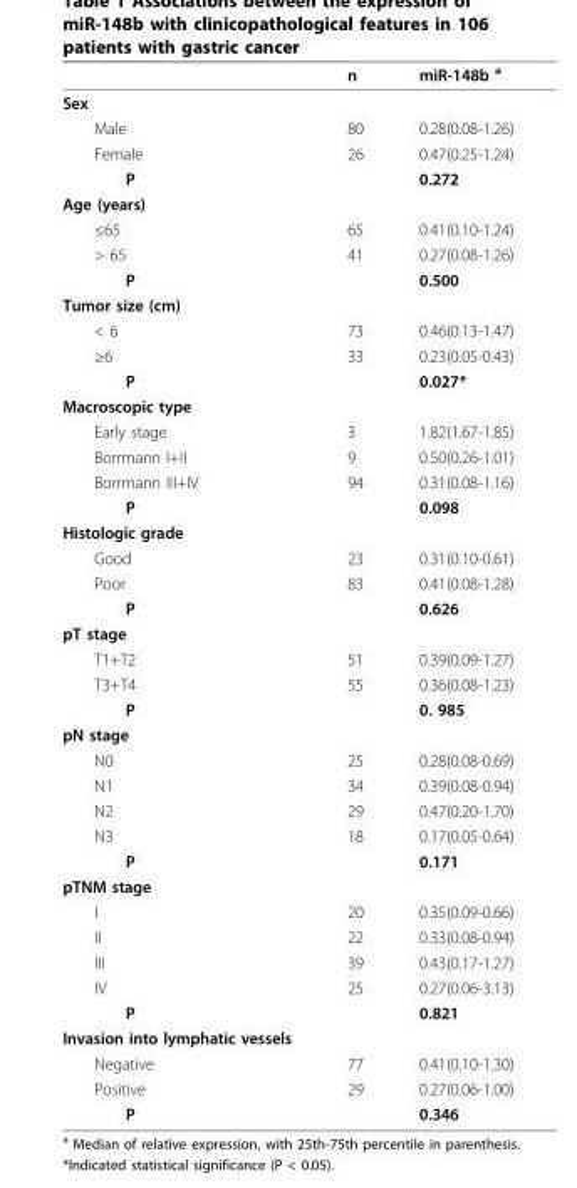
<table><thead><tr><td></td><td>n</td><td>miR-148b <sup>a</sup></td></tr></thead><tbody><tr><td colspan="3">Sex</td></tr><tr><td>Male</td><td>80</td><td>0.28(0.08-1.26)</td></tr><tr><td>Female</td><td>26</td><td>0.47(0.25-1.24)</td></tr><tr><td>P</td><td></td><td>0.272</td></tr><tr><td colspan="3">Age (years)</td></tr><tr><td>≤65</td><td>65</td><td>0.41(0.10-1.24)</td></tr><tr><td>&gt; 65</td><td>41</td><td>0.27(0.08-1.26)</td></tr><tr><td>P</td><td></td><td>0.500</td></tr><tr><td colspan="3">Tumor size (cm)</td></tr><tr><td>&lt; 6</td><td>73</td><td>0.46(0.13-1.47)</td></tr><tr><td>≥6</td><td>33</td><td>0.23(0.05-0.43)</td></tr><tr><td>P</td><td></td><td>0.027*</td></tr><tr><td colspan="3">Macroscopic type</td></tr><tr><td>Early stage</td><td>3</td><td>1.82(1.67-1.85)</td></tr><tr><td>Borrmann I+II</td><td>9</td><td>0.50(0.26-1.01)</td></tr><tr><td>Borrmann III+IV</td><td>94</td><td>0.31(0.08-1.16)</td></tr><tr><td>P</td><td></td><td>0.098</td></tr><tr><td colspan="3">Histologic grade</td></tr><tr><td>Good</td><td>23</td><td>0.31(0.10-0.61)</td></tr><tr><td>Poor</td><td>83</td><td>0.41(0.08-1.28)</td></tr><tr><td>P</td><td></td><td>0.626</td></tr><tr><td colspan="3">pT stage</td></tr><tr><td>T1+T2</td><td>51</td><td>0.39(0.09-1.27)</td></tr><tr><td>T3+T4</td><td>55</td><td>0.36(0.08-1.23)</td></tr><tr><td>P</td><td></td><td>0. 985</td></tr><tr><td colspan="3">pN stage</td></tr><tr><td>N0</td><td>25</td><td>0.28(0.08-0.69)</td></tr><tr><td>N1</td><td>34</td><td>0.39(0.08-0.94)</td></tr><tr><td>N2</td><td>29</td><td>0.47(0.20-1.70)</td></tr><tr><td>N3</td><td>18</td><td>0.17(0.05-0.64)</td></tr><tr><td>P</td><td></td><td>0.171</td></tr><tr><td colspan="3">pTNM stage</td></tr><tr><td>I</td><td>20</td><td>0.35(0.09-0.66)</td></tr><tr><td>II</td><td>22</td><td>0.33(0.08-0.94)</td></tr><tr><td>III</td><td>39</td><td>0.43(0.17-1.27)</td></tr><tr><td>IV</td><td>25</td><td>0.27(0.06-3.13)</td></tr><tr><td>P</td><td></td><td>0.821</td></tr><tr><td colspan="3">Invasion into lymphatic vessels</td></tr><tr><td>Negative</td><td>77</td><td>0.41(0.10-1.30)</td></tr><tr><td>Positive</td><td>29</td><td>0.27(0.06-1.00)</td></tr><tr><td>P</td><td></td><td>0.346</td></tr></tbody></table>